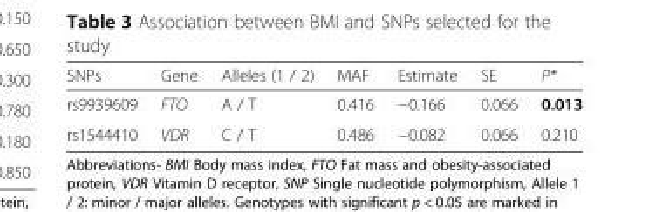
<table><thead><tr><td>SNPs</td><td>Gene</td><td>Alleles (1 / 2)</td><td>MAF</td><td>Estimate</td><td>SE</td><td>P*</td></tr></thead><tbody><tr><td>rs9939609</td><td>FTO</td><td>A / T</td><td>0.416</td><td>−0.166</td><td>0.066</td><td>0.013</td></tr><tr><td>rs1544410</td><td>VDR</td><td>C / T</td><td>0.486</td><td>−0.082</td><td>0.066</td><td>0.210</td></tr></tbody></table>